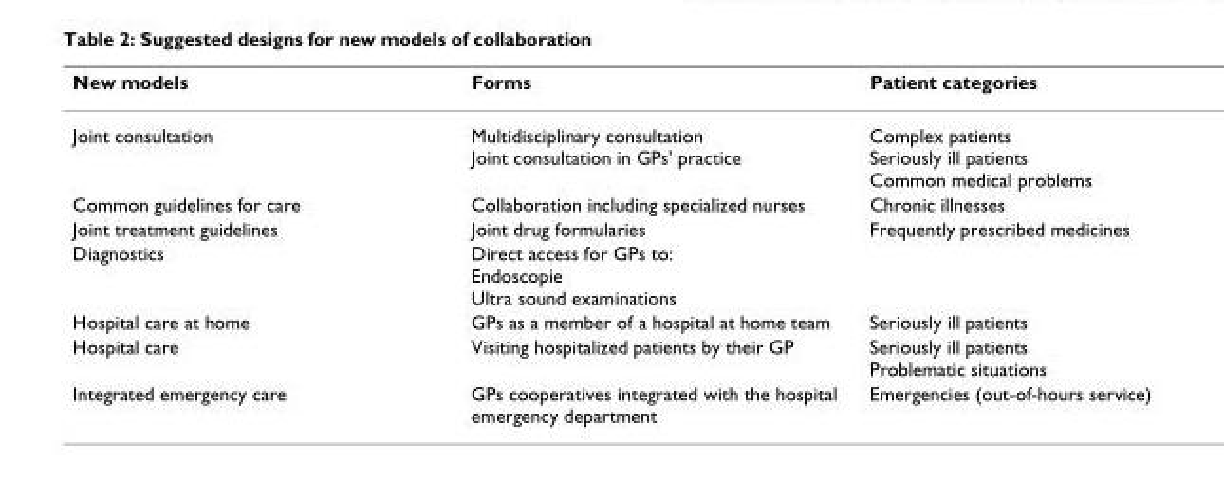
<table><thead><tr><td>New models</td><td>Forms</td><td>Patient categories</td></tr></thead><tbody><tr><td>Joint consultation</td><td>Multidisciplinary consultation Joint consultation in GPs&#x27; practice</td><td>Complex patients Seriously ill patients Common medical problems</td></tr><tr><td>Common guidelines for care</td><td>Collaboration including specialized nurses</td><td>Chronic illnesses</td></tr><tr><td>Joint treatment guidelines</td><td>Joint drug formularies</td><td>Frequently prescribed medicines</td></tr><tr><td>Diagnostics</td><td>Direct access for GPs to: Endoscopie Ultra sound examinations</td><td></td></tr><tr><td>Hospital care at home</td><td>GPs as a member of a hospital at home team</td><td>Seriously ill patients</td></tr><tr><td>Hospital care</td><td>Visiting hospitalized patients by their GP</td><td>Seriously ill patients Problematic situations</td></tr><tr><td>Integrated emergency care</td><td>GPs cooperatives integrated with the hospital emergency department</td><td>Emergencies (out-of-hours service)</td></tr></tbody></table>